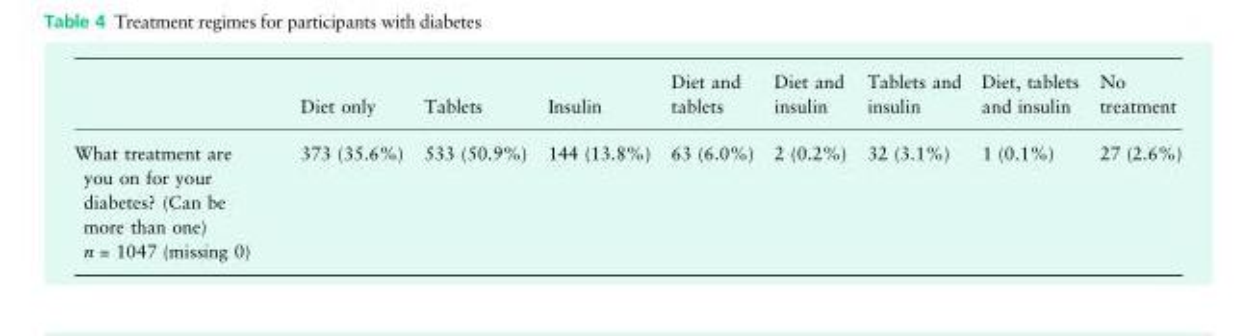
<table><thead><tr><td></td><td>Diet only</td><td>Tablets</td><td>Insulin</td><td>Diet and tablets</td><td>Diet and insulin</td><td>Tablets and insulin</td><td>Diet, tablets and insulin</td><td>No treatment</td></tr></thead><tbody><tr><td>What treatment are you on for your diabetes? (Can be more than one) n = 1047 (missing 0)</td><td>373 (35.6%)</td><td>533 (50.9%)</td><td>144 (13.8%)</td><td>63 (6.0%)</td><td>2 (0.2%)</td><td>32 (3.1%)</td><td>1 (0.1%)</td><td>27 (2.6%)</td></tr></tbody></table>